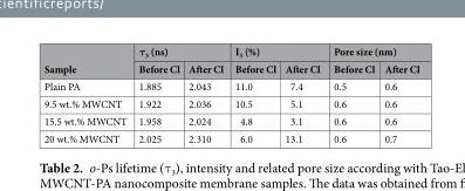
<table><thead><tr><td rowspan="2">Sample</td><td colspan="2">τ<sub>3</sub> (ns)</td><td colspan="2">I<sub>3</sub> (%)</td><td colspan="2">Pore size (nm)</td></tr><tr><td>Before Cl</td><td>After Cl</td><td>Before Cl</td><td>After Cl</td><td>Before Cl</td><td>After Cl</td></tr></thead><tbody><tr><td>Plain PA</td><td>1.885</td><td>2.043</td><td>11.0</td><td>7.4</td><td>0.5</td><td>0.6</td></tr><tr><td>9.5 wt.% MWCNT</td><td>1.922</td><td>2.036</td><td>10.5</td><td>5.1</td><td>0.6</td><td>0.6</td></tr><tr><td>15.5 wt.% MWCNT</td><td>1.958</td><td>2.024</td><td>4.8</td><td>3.1</td><td>0.6</td><td>0.6</td></tr><tr><td>20 wt.% MWCNT</td><td>2.025</td><td>2.310</td><td>6.0</td><td>13.1</td><td>0.6</td><td>0.7</td></tr></tbody></table>